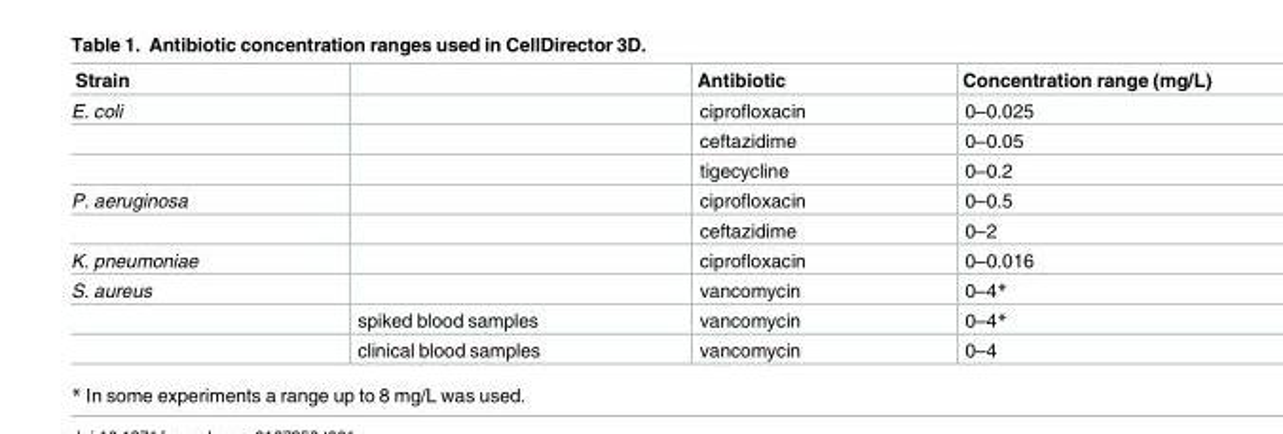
<table><thead><tr><td>Strain</td><td></td><td>Antibiotic</td><td>Concentration range (mg/L)</td></tr></thead><tbody><tr><td rowspan="3">E. coli</td><td></td><td>ciprofloxacin</td><td>0–0.025</td></tr><tr><td></td><td>ceftazidime</td><td>0–0.05</td></tr><tr><td></td><td>tigecycline</td><td>0–0.2</td></tr><tr><td rowspan="2">P. aeruginosa</td><td></td><td>ciprofloxacin</td><td>0–0.5</td></tr><tr><td></td><td>ceftazidime</td><td>0–2</td></tr><tr><td>K. pneumoniae</td><td></td><td>ciprofloxacin</td><td>0–0.016</td></tr><tr><td rowspan="3">S. aureus</td><td></td><td>vancomycin</td><td>0–4*</td></tr><tr><td>spiked blood samples</td><td>vancomycin</td><td>0–4*</td></tr><tr><td>clinical blood samples</td><td>vancomycin</td><td>0–4</td></tr></tbody></table>